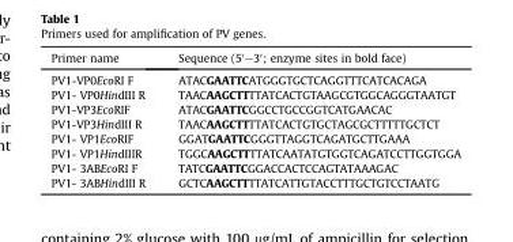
<table><thead><tr><td>Primer name</td><td>Sequence (5′–3′; enzyme sites in bold face)</td></tr></thead><tbody><tr><td>PV1-VP0EcoRI F</td><td>ATACGAATTCATGGGTGCTCAGGTTTCATCACAGA</td></tr><tr><td>PV1- VP0HindIII R</td><td>TAACAAGCTTTTATCACTGTAAGCGTGGCAGGGTAATGT</td></tr><tr><td>PV1-VP3EcoRIF</td><td>ATACGAATTCGGCCTGCCGGTCATGAACAC</td></tr><tr><td>PV1-VP3HindIII R</td><td>TAACAAGCTTTTATCACTGTGCTAGCGCTTTTTGCTCT</td></tr><tr><td>PV1- VP1EcoRIF</td><td>GGATGAATTCGGGTTAGGTCAGATGCTTGAAA</td></tr><tr><td>PV1- VP1HindIIIR</td><td>TGGCAAGCTTTTATCAATATGTGGTCAGATCCTTGGTGGA</td></tr><tr><td>PV1- 3ABEcoRI F</td><td>TATCGAATTCGGACCACTCCAGTATAAAGAC</td></tr><tr><td>PV1- 3ABHindIII R</td><td>GCTCAAGCTTTTATCATTGTACCTTTGCTGTCCTAATG</td></tr></tbody></table>